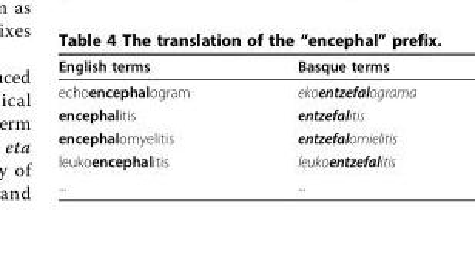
<table><thead><tr><td>English terms</td><td>Basque terms</td></tr></thead><tbody><tr><td>echoencephalogram</td><td>ekoentzefalograma</td></tr><tr><td>encephalitis</td><td>entzefalitis</td></tr><tr><td>encephalomyelitis</td><td>entzefalomielitis</td></tr><tr><td>leukoencephalitis</td><td>leukoentzefalitis</td></tr><tr><td>...</td><td>...</td></tr></tbody></table>